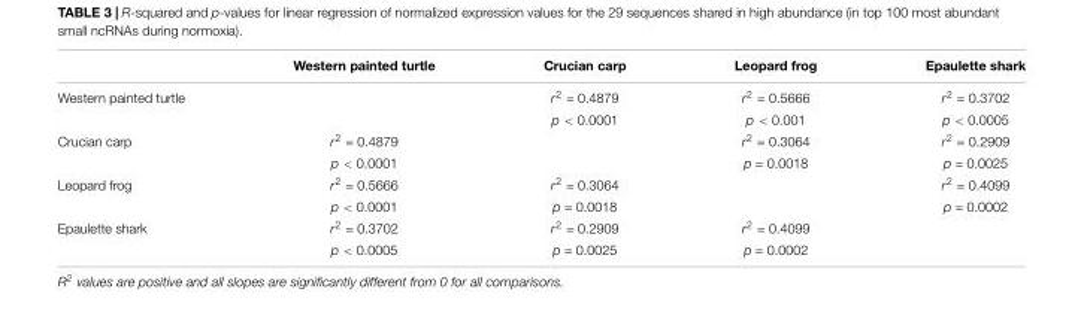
<table><thead><tr><td></td><td>Western painted turtle</td><td>Crucian carp</td><td>Leopard frog</td><td>Epaulette shark</td></tr></thead><tbody><tr><td rowspan="2">Western painted turtle</td><td></td><td>r<sup>2</sup> = 0.4879</td><td>r<sup>2</sup> = 0.5666</td><td>r<sup>2</sup> = 0.3702</td></tr><tr><td></td><td>p &lt; 0.0001</td><td>p &lt; 0.001</td><td>p &lt; 0.0005</td></tr><tr><td rowspan="2">Crucian carp</td><td>r<sup>2</sup> = 0.4879</td><td></td><td>r<sup>2</sup> = 0.3064</td><td>r<sup>2</sup> = 0.2909</td></tr><tr><td>p &lt; 0.0001</td><td></td><td>p = 0.0018</td><td>p = 0.0025</td></tr><tr><td rowspan="2">Leopard frog</td><td>r<sup>2</sup> = 0.5666</td><td>r<sup>2</sup> = 0.3064</td><td></td><td>r<sup>2</sup> = 0.4099</td></tr><tr><td>p &lt; 0.0001</td><td>p = 0.0018</td><td></td><td>p = 0.0002</td></tr><tr><td rowspan="2">Epaulette shark</td><td>r<sup>2</sup> = 0.3702</td><td>r<sup>2</sup> = 0.2909</td><td>r<sup>2</sup> = 0.4099</td><td></td></tr><tr><td>p &lt; 0.0005</td><td>p = 0.0025</td><td>p = 0.0002</td><td></td></tr></tbody></table>